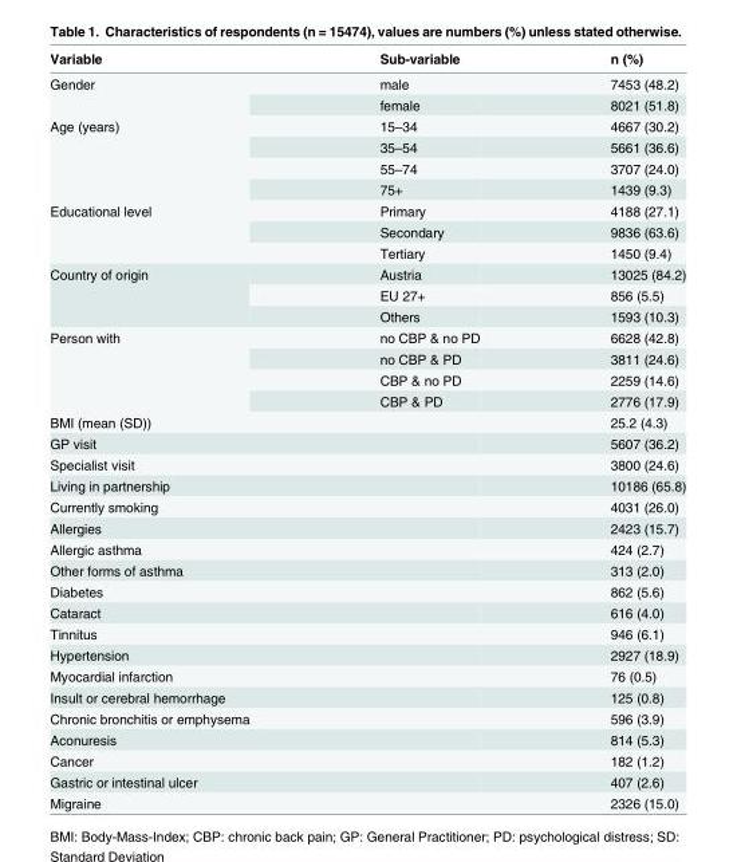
<table><thead><tr><td>Variable</td><td>Sub-variable</td><td>n (%)</td></tr></thead><tbody><tr><td rowspan="2">Gender</td><td>male</td><td>7453 (48.2)</td></tr><tr><td>female</td><td>8021 (51.8)</td></tr><tr><td rowspan="4">Age (years)</td><td>15–34</td><td>4667 (30.2)</td></tr><tr><td>35–54</td><td>5661 (36.6)</td></tr><tr><td>55–74</td><td>3707 (24.0)</td></tr><tr><td>75+</td><td>1439 (9.3)</td></tr><tr><td rowspan="3">Educational level</td><td>Primary</td><td>4188 (27.1)</td></tr><tr><td>Secondary</td><td>9836 (63.6)</td></tr><tr><td>Tertiary</td><td>1450 (9.4)</td></tr><tr><td rowspan="3">Country of origin</td><td>Austria</td><td>13025 (84.2)</td></tr><tr><td>EU 27+</td><td>856 (5.5)</td></tr><tr><td>Others</td><td>1593 (10.3)</td></tr><tr><td rowspan="4">Person with</td><td>no CBP &amp; no PD</td><td>6628 (42.8)</td></tr><tr><td>no CBP &amp; PD</td><td>3811 (24.6)</td></tr><tr><td>CBP &amp; no PD</td><td>2259 (14.6)</td></tr><tr><td>CBP &amp; PD</td><td>2776 (17.9)</td></tr><tr><td>BMI (mean (SD))</td><td></td><td>25.2 (4.3)</td></tr><tr><td>GP visit</td><td></td><td>5607 (36.2)</td></tr><tr><td>Specialist visit</td><td></td><td>3800 (24.6)</td></tr><tr><td>Living in partnership</td><td></td><td>10186 (65.8)</td></tr><tr><td>Currently smoking</td><td></td><td>4031 (26.0)</td></tr><tr><td>Allergies</td><td></td><td>2423 (15.7)</td></tr><tr><td>Allergic asthma</td><td></td><td>424 (2.7)</td></tr><tr><td>Other forms of asthma</td><td></td><td>313 (2.0)</td></tr><tr><td>Diabetes</td><td></td><td>862 (5.6)</td></tr><tr><td>Cataract</td><td></td><td>616 (4.0)</td></tr><tr><td>Tinnitus</td><td></td><td>946 (6.1)</td></tr><tr><td>Hypertension</td><td></td><td>2927 (18.9)</td></tr><tr><td>Myocardial infarction</td><td></td><td>76 (0.5)</td></tr><tr><td>Insult or cerebral hemorrhage</td><td></td><td>125 (0.8)</td></tr><tr><td>Chronic bronchitis or emphysema</td><td></td><td>596 (3.9)</td></tr><tr><td>Aconuresis</td><td></td><td>814 (5.3)</td></tr><tr><td>Cancer</td><td></td><td>182 (1.2)</td></tr><tr><td>Gastric or intestinal ulcer</td><td></td><td>407 (2.6)</td></tr><tr><td>Migraine</td><td></td><td>2326 (15.0)</td></tr></tbody></table>